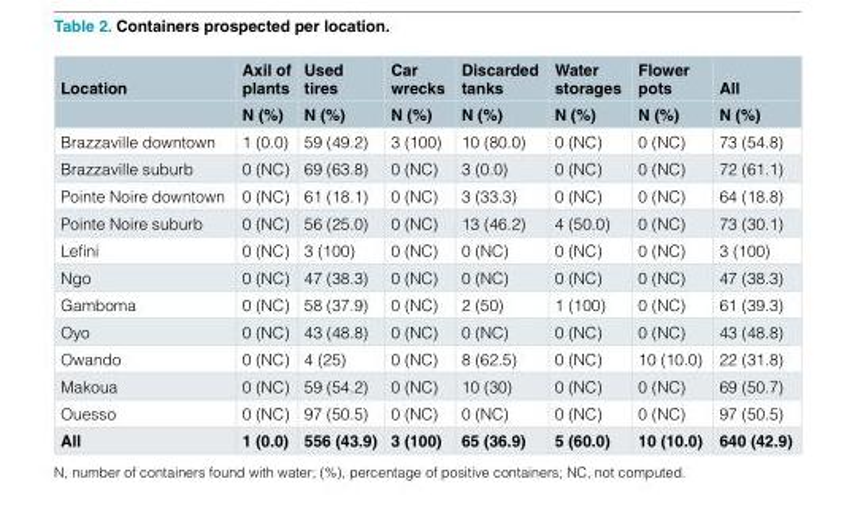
<table><thead><tr><td rowspan="2">Location</td><td rowspan="2">Axil of plants N (%)</td><td rowspan="2">Used tires N (%)</td><td rowspan="2">Car wrecks N (%)</td><td rowspan="2">Discarded tanks N (%)</td><td rowspan="2">Water storages N (%)</td><td rowspan="2">Flower pots N (%)</td><td rowspan="2">All N (%)</td></tr><tr></tr></thead><tbody><tr><td>Brazzaville downtown</td><td>1 (0.0)</td><td>59 (49.2)</td><td>3 (100)</td><td>10 (80.0)</td><td>0 (NC)</td><td>0 (NC)</td><td>73 (54.8)</td></tr><tr><td>Brazzaville suburb</td><td>0 (NC)</td><td>69 (63.8)</td><td>0 (NC)</td><td>3 (0.0)</td><td>0 (NC)</td><td>0 (NC)</td><td>72 (61.1)</td></tr><tr><td>Pointe Noire downtown</td><td>0 (NC)</td><td>61 (18.1)</td><td>0 (NC)</td><td>3 (33.3)</td><td>0 (NC)</td><td>0 (NC)</td><td>64 (18.8)</td></tr><tr><td>Pointe Noire suburb</td><td>0 (NC)</td><td>56 (25.0)</td><td>0 (NC)</td><td>13 (46.2)</td><td>4 (50.0)</td><td>0 (NC)</td><td>73 (30.1)</td></tr><tr><td>Lefini</td><td>0 (NC)</td><td>3 (100)</td><td>0 (NC)</td><td>0 (NC)</td><td>0 (NC)</td><td>0 (NC)</td><td>3 (100)</td></tr><tr><td>Ngo</td><td>0 (NC)</td><td>47 (38.3)</td><td>0 (NC)</td><td>0 (NC)</td><td>0 (NC)</td><td>0 (NC)</td><td>47 (38.3)</td></tr><tr><td>Gamboma</td><td>0 (NC)</td><td>58 (37.9)</td><td>0 (NC)</td><td>2 (50)</td><td>1 (100)</td><td>0 (NC)</td><td>61 (39.3)</td></tr><tr><td>Oyo</td><td>0 (NC)</td><td>43 (48.8)</td><td>0 (NC)</td><td>0 (NC)</td><td>0 (NC)</td><td>0 (NC)</td><td>43 (48.8)</td></tr><tr><td>Owando</td><td>0 (NC)</td><td>4 (25)</td><td>0 (NC)</td><td>8 (62.5)</td><td>0 (NC)</td><td>10 (10.0)</td><td>22 (31.8)</td></tr><tr><td>Makoua</td><td>0 (NC)</td><td>59 (54.2)</td><td>0 (NC)</td><td>10 (30)</td><td>0 (NC)</td><td>0 (NC)</td><td>69 (50.7)</td></tr><tr><td>Ouesso</td><td>0 (NC)</td><td>97 (50.5)</td><td>0 (NC)</td><td>0 (NC)</td><td>0 (NC)</td><td>0 (NC)</td><td>97 (50.5)</td></tr><tr><td>All</td><td>1 (0.0)</td><td>556 (43.9)</td><td>3 (100)</td><td>65 (36.9)</td><td>5 (60.0)</td><td>10 (10.0)</td><td>640 (42.9)</td></tr></tbody></table>